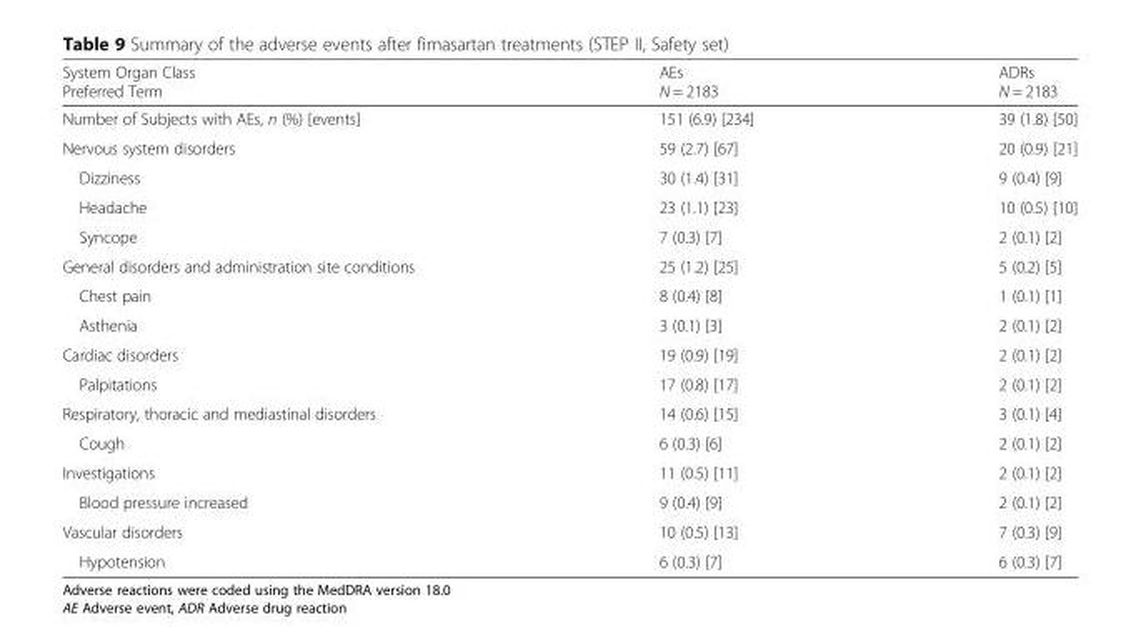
<table><thead><tr><td>System Organ Class Preferred Term</td><td>AEs N = 2183</td><td>ADRs N = 2183</td></tr></thead><tbody><tr><td>Number of Subjects with AEs, n (%) [events]</td><td>151 (6.9) [234]</td><td>39 (1.8) [50]</td></tr><tr><td>Nervous system disorders</td><td>59 (2.7) [67]</td><td>20 (0.9) [21]</td></tr><tr><td>Dizziness</td><td>30 (1.4) [31]</td><td>9 (0.4) [9]</td></tr><tr><td>Headache</td><td>23 (1.1) [23]</td><td>10 (0.5) [10]</td></tr><tr><td>Syncope</td><td>7 (0.3) [7]</td><td>2 (0.1) [2]</td></tr><tr><td>General disorders and administration site conditions</td><td>25 (1.2) [25]</td><td>5 (0.2) [5]</td></tr><tr><td>Chest pain</td><td>8 (0.4) [8]</td><td>1 (0.1) [1]</td></tr><tr><td>Asthenia</td><td>3 (0.1) [3]</td><td>2 (0.1) [2]</td></tr><tr><td>Cardiac disorders</td><td>19 (0.9) [19]</td><td>2 (0.1) [2]</td></tr><tr><td>Palpitations</td><td>17 (0.8) [17]</td><td>2 (0.1) [2]</td></tr><tr><td>Respiratory, thoracic and mediastinal disorders</td><td>14 (0.6) [15]</td><td>3 (0.1) [4]</td></tr><tr><td>Cough</td><td>6 (0.3) [6]</td><td>2 (0.1) [2]</td></tr><tr><td>Investigations</td><td>11 (0.5) [11]</td><td>2 (0.1) [2]</td></tr><tr><td>Blood pressure increased</td><td>9 (0.4) [9]</td><td>2 (0.1) [2]</td></tr><tr><td>Vascular disorders</td><td>10 (0.5) [13]</td><td>7 (0.3) [9]</td></tr><tr><td>Hypotension</td><td>6 (0.3) [7]</td><td>6 (0.3) [7]</td></tr></tbody></table>